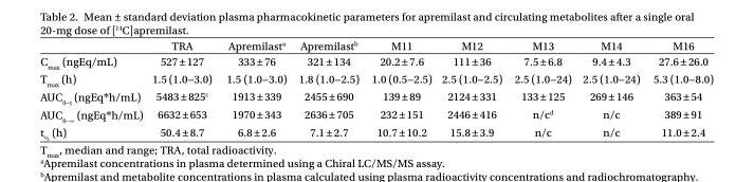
<table><thead><tr><td></td><td>TRA</td><td>Apremilast<sup>a</sup></td><td>Apremilast<sup>b</sup></td><td>M11</td><td>M12</td><td>M13</td><td>M14</td><td>M16</td></tr></thead><tbody><tr><td>C<sub>max</sub> (ngEq/mL)</td><td>527 ± 127</td><td>333 ± 76</td><td>321 ± 134</td><td>20.2 ± 7.6</td><td>111 ± 36</td><td>7.5 ± 6.8</td><td>9.4 ± 4.3</td><td>27.6 ± 26.0</td></tr><tr><td>T<sub>max</sub> (h)</td><td>1.5 (1.0−3.0)</td><td>1.5 (1.0−3.0)</td><td>1.8 (1.0−2.5)</td><td>1.0 (0.5−2.5)</td><td>2.5 (1.0−2.5)</td><td>2.5 (1.0−24)</td><td>2.5 (1.0−24)</td><td>5.3 (1.0−8.0)</td></tr><tr><td>AUC<sub>0−t</sub> (ngEq*h/mL)</td><td>5483 ± 825<sup>c</sup></td><td>1913 ± 339</td><td>2455 ± 690</td><td>139 ± 89</td><td>2124 ± 331</td><td>133 ± 125</td><td>269 ± 146</td><td>363 ± 54</td></tr><tr><td>AUC<sub>0−∞</sub> (ngEq*h/mL)</td><td>6632 ± 653</td><td>1970 ± 343</td><td>2636 ± 705</td><td>232 ± 151</td><td>2446 ± 416</td><td>n/c<sup>d</sup></td><td>n/c</td><td>389 ± 91</td></tr><tr><td>t<sub>½</sub> (h)</td><td>50.4 ± 8.7</td><td>6.8 ± 2.6</td><td>7.1 ± 2.7</td><td>10.7 ± 10.2</td><td>15.8 ± 3.9</td><td>n/c</td><td>n/c</td><td>11.0 ± 2.4</td></tr></tbody></table>